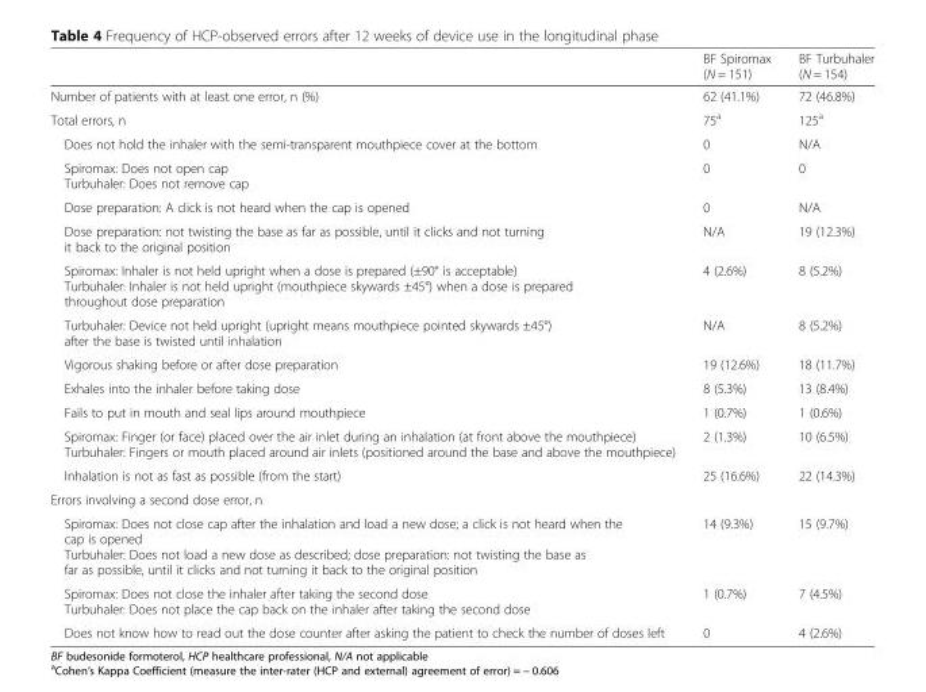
<table><thead><tr><td></td><td>BF Spiromax (N = 151)</td><td>BF Turbuhaler (N = 154)</td></tr></thead><tbody><tr><td>Number of patients with at least one error, n (%)</td><td>62 (41.1%)</td><td>72 (46.8%)</td></tr><tr><td>Total errors, n</td><td>75<sup>a</sup></td><td>125<sup>a</sup></td></tr><tr><td>Does not hold the inhaler with the semi-transparent mouthpiece cover at the bottom</td><td>0</td><td>N/A</td></tr><tr><td>Spiromax: Does not open cap Turbuhaler: Does not remove cap</td><td>0</td><td>0</td></tr><tr><td>Dose preparation: A click is not heard when the cap is opened</td><td>0</td><td>N/A</td></tr><tr><td>Dose preparation: not twisting the base as far as possible, until it clicks and not turning it back to the original position</td><td>N/A</td><td>19 (12.3%)</td></tr><tr><td>Spiromax: Inhaler is not held upright when a dose is prepared (±90° is acceptable) Turbuhaler: Inhaler is not held upright (mouthpiece skywards ±45°) when a dose is prepared throughout dose preparation</td><td>4 (2.6%)</td><td>8 (5.2%)</td></tr><tr><td>Turbuhaler: Device not held upright (upright means mouthpiece pointed skywards ±45°) after the base is twisted until inhalation</td><td>N/A</td><td>8 (5.2%)</td></tr><tr><td>Vigorous shaking before or after dose preparation</td><td>19 (12.6%)</td><td>18 (11.7%)</td></tr><tr><td>Exhales into the inhaler before taking dose</td><td>8 (5.3%)</td><td>13 (8.4%)</td></tr><tr><td>Fails to put in mouth and seal lips around mouthpiece</td><td>1 (0.7%)</td><td>1 (0.6%)</td></tr><tr><td>Spiromax: Finger (or face) placed over the air inlet during an inhalation (at front above the mouthpiece) Turbuhaler: Fingers or mouth placed around air inlets (positioned around the base and above the mouthpiece)</td><td>2 (1.3%)</td><td>10 (6.5%)</td></tr><tr><td>Inhalation is not as fast as possible (from the start)</td><td>25 (16.6%)</td><td>22 (14.3%)</td></tr><tr><td colspan="3">Errors involving a second dose error, n</td></tr><tr><td>Spiromax: Does not close cap after the inhalation and load a new dose; a click is not heard when the cap is opened Turbuhaler: Does not load a new dose as described; dose preparation: not twisting the base as far as possible, until it clicks and not turning it back to the original position</td><td>14 (9.3%)</td><td>15 (9.7%)</td></tr><tr><td>Spiromax: Does not close the inhaler after taking the second dose Turbuhaler: Does not place the cap back on the inhaler after taking the second dose</td><td>1 (0.7%)</td><td>7 (4.5%)</td></tr><tr><td>Does not know how to read out the dose counter after asking the patient to check the number of doses left</td><td>0</td><td>4 (2.6%)</td></tr></tbody></table>